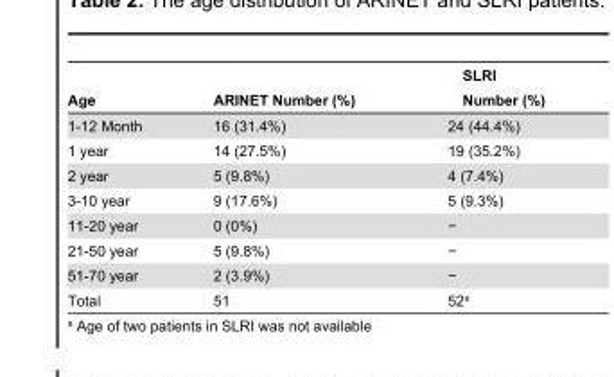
<table><thead><tr><td>Age</td><td>ARINET Number (%)</td><td>SLRI Number (%)</td></tr></thead><tbody><tr><td>1-12 Month</td><td>16 (31.4%)</td><td>24 (44.4%)</td></tr><tr><td>1 year</td><td>14 (27.5%)</td><td>19 (35.2%)</td></tr><tr><td>2 year</td><td>5 (9.8%)</td><td>4 (7.4%)</td></tr><tr><td>3-10 year</td><td>9 (17.6%)</td><td>5 (9.3%)</td></tr><tr><td>11-20 year</td><td>0 (0%)</td><td>−</td></tr><tr><td>21-50 year</td><td>5 (9.8%)</td><td>−</td></tr><tr><td>51-70 year</td><td>2 (3.9%)</td><td>−</td></tr><tr><td>Total</td><td>51</td><td>52<sup>a</sup></td></tr></tbody></table>